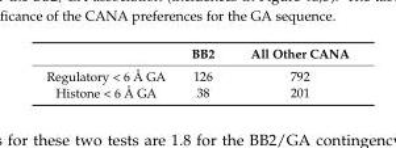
<table><thead><tr><td></td><td>BB2</td><td>All Other CANA</td></tr></thead><tbody><tr><td>Regulatory &lt; 6 Å GA</td><td>126</td><td>792</td></tr><tr><td>Histone &lt; 6 Å GA</td><td>38</td><td>201</td></tr></tbody></table>